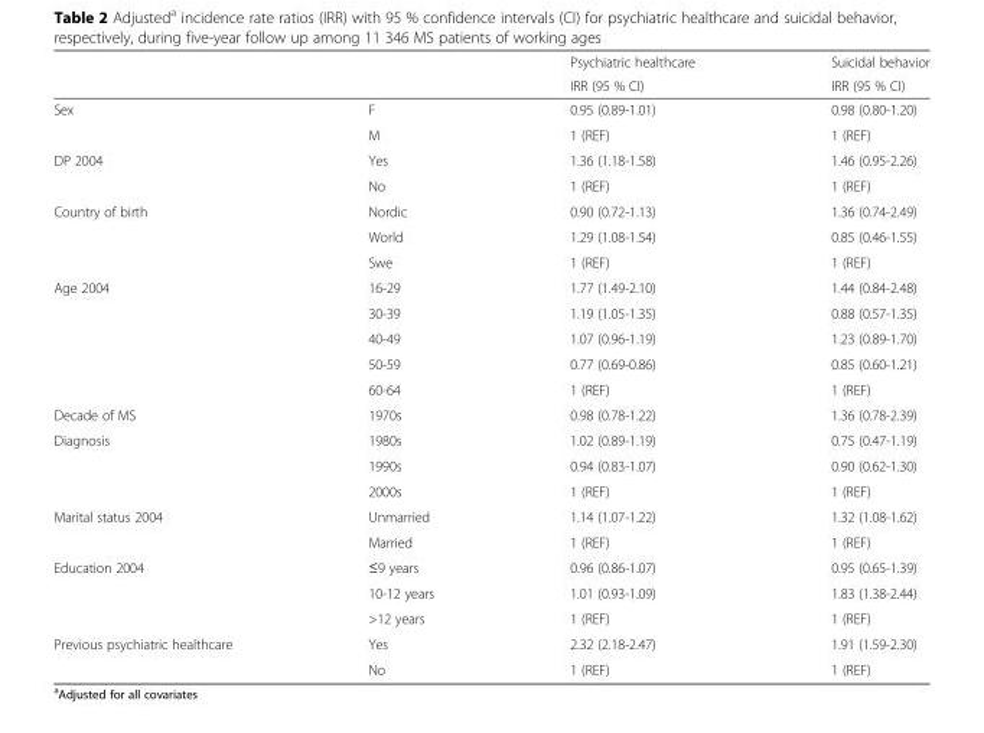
<table><thead><tr><td rowspan="2"></td><td rowspan="2"></td><td rowspan="2">Psychiatric healthcare IRR (95 % CI)</td><td rowspan="2">Suicidal behavior IRR (95 % CI)</td></tr><tr></tr></thead><tbody><tr><td rowspan="2">Sex</td><td>F</td><td>0.95 (0.89-1.01)</td><td>0.98 (0.80-1.20)</td></tr><tr><td>M</td><td>1 (REF)</td><td>1 (REF)</td></tr><tr><td rowspan="2">DP 2004</td><td>Yes</td><td>1.36 (1.18-1.58)</td><td>1.46 (0.95-2.26)</td></tr><tr><td>No</td><td>1 (REF)</td><td>1 (REF)</td></tr><tr><td rowspan="3">Country of birth</td><td>Nordic</td><td>0.90 (0.72-1.13)</td><td>1.36 (0.74-2.49)</td></tr><tr><td>World</td><td>1.29 (1.08-1.54)</td><td>0.85 (0.46-1.55)</td></tr><tr><td>Swe</td><td>1 (REF)</td><td>1 (REF)</td></tr><tr><td rowspan="5">Age 2004</td><td>16-29</td><td>1.77 (1.49-2.10)</td><td>1.44 (0.84-2.48)</td></tr><tr><td>30-39</td><td>1.19 (1.05-1.35)</td><td>0.88 (0.57-1.35)</td></tr><tr><td>40-49</td><td>1.07 (0.96-1.19)</td><td>1.23 (0.89-1.70)</td></tr><tr><td>50-59</td><td>0.77 (0.69-0.86)</td><td>0.85 (0.60-1.21)</td></tr><tr><td>60-64</td><td>1 (REF)</td><td>1 (REF)</td></tr><tr><td>Decade of MS</td><td>1970s</td><td>0.98 (0.78-1.22)</td><td>1.36 (0.78-2.39)</td></tr><tr><td rowspan="3">Diagnosis</td><td>1980s</td><td>1.02 (0.89-1.19)</td><td>0.75 (0.47-1.19)</td></tr><tr><td>1990s</td><td>0.94 (0.83-1.07)</td><td>0.90 (0.62-1.30)</td></tr><tr><td>2000s</td><td>1 (REF)</td><td>1 (REF)</td></tr><tr><td rowspan="2">Marital status 2004</td><td>Unmarried</td><td>1.14 (1.07-1.22)</td><td>1.32 (1.08-1.62)</td></tr><tr><td>Married</td><td>1 (REF)</td><td>1 (REF)</td></tr><tr><td rowspan="3">Education 2004</td><td>≤9 years</td><td>0.96 (0.86-1.07)</td><td>0.95 (0.65-1.39)</td></tr><tr><td>10-12 years</td><td>1.01 (0.93-1.09)</td><td>1.83 (1.38-2.44)</td></tr><tr><td>&gt;12 years</td><td>1 (REF)</td><td>1 (REF)</td></tr><tr><td rowspan="2">Previous psychiatric healthcare</td><td>Yes</td><td>2.32 (2.18-2.47)</td><td>1.91 (1.59-2.30)</td></tr><tr><td>No</td><td>1 (REF)</td><td>1 (REF)</td></tr></tbody></table>